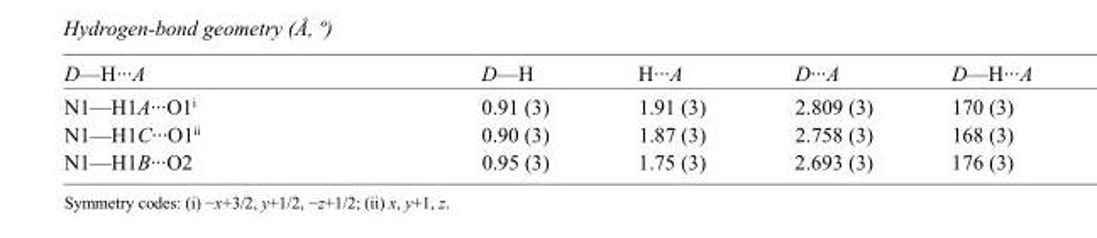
<table><tbody><tr><td>D—H···A</td><td>D—H</td><td>H···A</td><td>D···A</td><td>D—H···A</td></tr><tr><td>N1—H1A···O1<sup>i</sup></td><td>0.91 (3)</td><td>1.91 (3)</td><td>2.809 (3)</td><td>170 (3)</td></tr><tr><td>N1—H1C···O1<sup>ii</sup></td><td>0.90 (3)</td><td>1.87 (3)</td><td>2.758 (3)</td><td>168 (3)</td></tr><tr><td>N1—H1B···O2</td><td>0.95 (3)</td><td>1.75 (3)</td><td>2.693 (3)</td><td>176 (3)</td></tr></tbody></table>